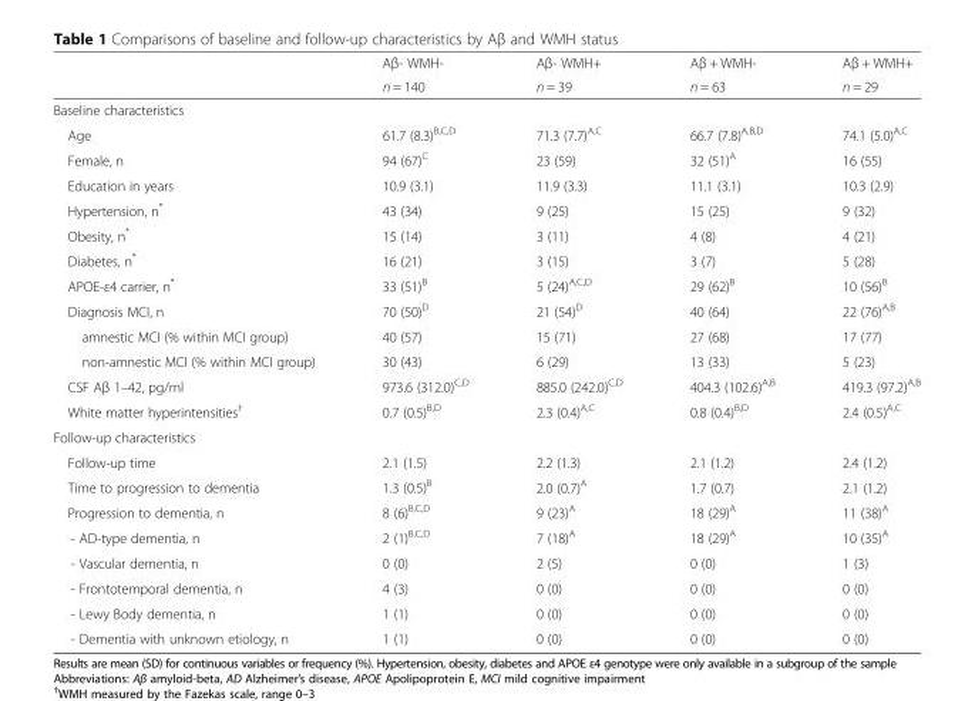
<table><thead><tr><td rowspan="2"></td><td rowspan="2">Aβ- WMH- n = 140</td><td rowspan="2">Aβ- WMH+ n = 39</td><td rowspan="2">Aβ + WMH- n = 63</td><td rowspan="2">Aβ + WMH+ n = 29</td></tr><tr></tr></thead><tbody><tr><td colspan="5">Baseline characteristics</td></tr><tr><td>Age</td><td>61.7 (8.3)<sup>B,C,D</sup></td><td>71.3 (7.7)<sup>A,C</sup></td><td>66.7 (7.8)<sup>A,B,D</sup></td><td>74.1 (5.0)<sup>A,C</sup></td></tr><tr><td>Female, n</td><td>94 (67)<sup>C</sup></td><td>23 (59)</td><td>32 (51)<sup>A</sup></td><td>16 (55)</td></tr><tr><td>Education in years</td><td>10.9 (3.1)</td><td>11.9 (3.3)</td><td>11.1 (3.1)</td><td>10.3 (2.9)</td></tr><tr><td>Hypertension, n*</td><td>43 (34)</td><td>9 (25)</td><td>15 (25)</td><td>9 (32)</td></tr><tr><td>Obesity, n*</td><td>15 (14)</td><td>3 (11)</td><td>4 (8)</td><td>4 (21)</td></tr><tr><td>Diabetes, n*</td><td>16 (21)</td><td>3 (15)</td><td>3 (7)</td><td>5 (28)</td></tr><tr><td>APOE-ε4 carrier, n*</td><td>33 (51)<sup>B</sup></td><td>5 (24)<sup>A,C,D</sup></td><td>29 (62)<sup>B</sup></td><td>10 (56)<sup>B</sup></td></tr><tr><td>Diagnosis MCI, n</td><td>70 (50)<sup>D</sup></td><td>21 (54)<sup>D</sup></td><td>40 (64)</td><td>22 (76)<sup>A,B</sup></td></tr><tr><td>amnestic MCI (% within MCI group)</td><td>40 (57)</td><td>15 (71)</td><td>27 (68)</td><td>17 (77)</td></tr><tr><td>non-amnestic MCI (% within MCI group)</td><td>30 (43)</td><td>6 (29)</td><td>13 (33)</td><td>5 (23)</td></tr><tr><td>CSF Aβ 1–42, pg/ml</td><td>973.6 (312.0)<sup>C,D</sup></td><td>885.0 (242.0)<sup>C,D</sup></td><td>404.3 (102.6)<sup>A,B</sup></td><td>419.3 (97.2)<sup>A,B</sup></td></tr><tr><td>White matter hyperintensities<sup>†</sup></td><td>0.7 (0.5)<sup>B,D</sup></td><td>2.3 (0.4)<sup>A,C</sup></td><td>0.8 (0.4)<sup>B,D</sup></td><td>2.4 (0.5)<sup>A,C</sup></td></tr><tr><td colspan="5">Follow-up characteristics</td></tr><tr><td>Follow-up time</td><td>2.1 (1.5)</td><td>2.2 (1.3)</td><td>2.1 (1.2)</td><td>2.4 (1.2)</td></tr><tr><td>Time to progression to dementia</td><td>1.3 (0.5)<sup>B</sup></td><td>2.0 (0.7)<sup>A</sup></td><td>1.7 (0.7)</td><td>2.1 (1.2)</td></tr><tr><td>Progression to dementia, n</td><td>8 (6)<sup>B,C,D</sup></td><td>9 (23)<sup>A</sup></td><td>18 (29)<sup>A</sup></td><td>11 (38)<sup>A</sup></td></tr><tr><td>- AD-type dementia, n</td><td>2 (1)<sup>B,C,D</sup></td><td>7 (18)<sup>A</sup></td><td>18 (29)<sup>A</sup></td><td>10 (35)<sup>A</sup></td></tr><tr><td>- Vascular dementia, n</td><td>0 (0)</td><td>2 (5)</td><td>0 (0)</td><td>1 (3)</td></tr><tr><td>- Frontotemporal dementia, n</td><td>4 (3)</td><td>0 (0)</td><td>0 (0)</td><td>0 (0)</td></tr><tr><td>- Lewy Body dementia, n</td><td>1 (1)</td><td>0 (0)</td><td>0 (0)</td><td>0 (0)</td></tr><tr><td>- Dementia with unknown etiology, n</td><td>1 (1)</td><td>0 (0)</td><td>0 (0)</td><td>0 (0)</td></tr></tbody></table>